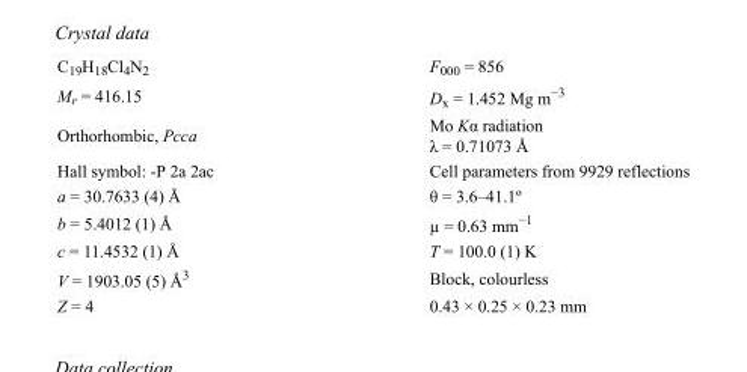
<table><tbody><tr><td>C<sub>19</sub>H<sub>18</sub>Cl<sub>4</sub>N<sub>2</sub></td><td>F<sub>000</sub> = 856</td></tr><tr><td>M<sub>r</sub> = 416.15</td><td>D<sub>x</sub> = 1.452 Mg m<sup>−3</sup></td></tr><tr><td>Orthorhombic, Pcca</td><td>Mo Kα radiation λ = 0.71073 Å</td></tr><tr><td>Hall symbol: -P 2a 2ac</td><td>Cell parameters from 9929 reflections</td></tr><tr><td>a = 30.7633 (4) Å</td><td>θ = 3.6–41.1º</td></tr><tr><td>b = 5.4012 (1) Å</td><td>µ = 0.63 mm<sup>−1</sup></td></tr><tr><td>c = 11.4532 (1) Å</td><td>T = 100.0 (1) K</td></tr><tr><td>V = 1903.05 (5) Å<sup>3</sup></td><td>Block, colourless</td></tr><tr><td>Z = 4</td><td>0.43 × 0.25 × 0.23 mm</td></tr></tbody></table>